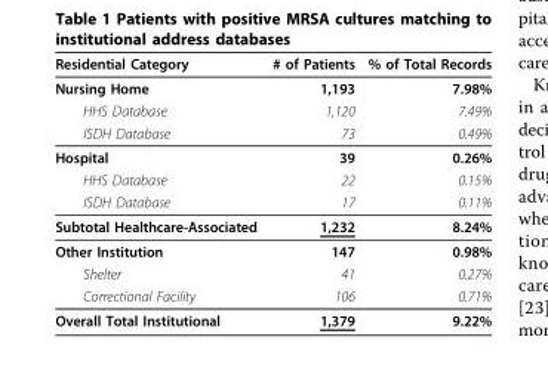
<table><thead><tr><td>Residential Category</td><td># of Patients</td><td>% of Total Records</td></tr></thead><tbody><tr><td>Nursing Home</td><td>1,193</td><td>7.98%</td></tr><tr><td>HHS Database</td><td>1,120</td><td>7.49%</td></tr><tr><td>ISDH Database</td><td>73</td><td>0.49%</td></tr><tr><td>Hospital</td><td>39</td><td>0.26%</td></tr><tr><td>HHS Database</td><td>22</td><td>0.15%</td></tr><tr><td>ISDH Database</td><td>17</td><td>0.11%</td></tr><tr><td>Subtotal Healthcare-Associated</td><td>1,232</td><td>8.24%</td></tr><tr><td>Other Institution</td><td>147</td><td>0.98%</td></tr><tr><td>Shelter</td><td>41</td><td>0.27%</td></tr><tr><td>Correctional Facility</td><td>106</td><td>0.71%</td></tr><tr><td>Overall Total Institutional</td><td>1,379</td><td>9.22%</td></tr></tbody></table>